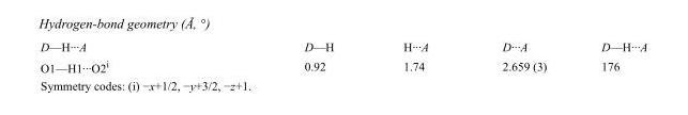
<table><tbody><tr><td>D—H···A</td><td>D—H</td><td>H···A</td><td>D···A</td><td>D—H···A</td></tr><tr><td>O1—H1···O2<sup>i</sup></td><td>0.92</td><td>1.74</td><td>2.659 (3)</td><td>176</td></tr></tbody></table>